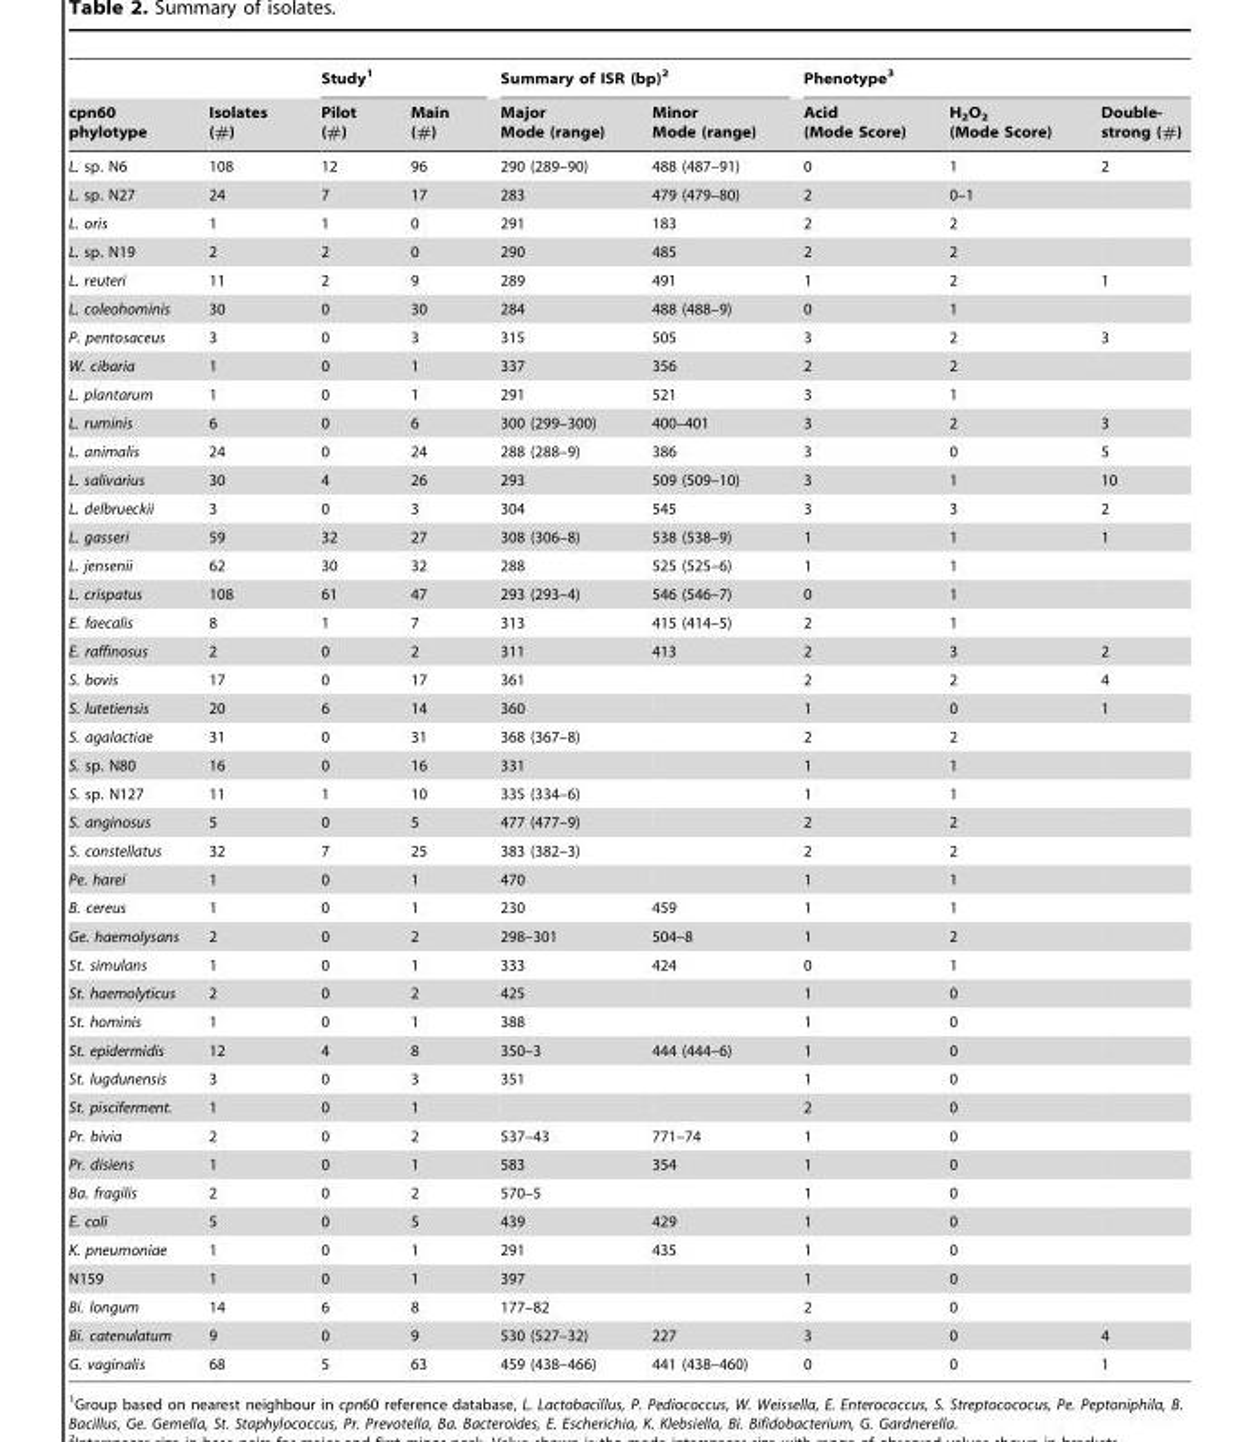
<table><thead><tr><td rowspan="2">cpn60 phylotype</td><td rowspan="2">Isolates (#)</td><td colspan="2">Study<sup>1</sup></td><td colspan="2">Summary of ISR (bp)<sup>2</sup></td><td colspan="3">Phenotype<sup>3</sup></td></tr><tr><td>Pilot (#)</td><td>Main (#)</td><td>Major Mode (range)</td><td>Minor Mode (range)</td><td>Acid (Mode Score)</td><td>H<sub>2</sub>O<sub>2</sub> (Mode Score)</td><td>Double- strong (#)</td></tr></thead><tbody><tr><td>L. sp. N6</td><td>108</td><td>12</td><td>96</td><td>290 (289–90)</td><td>488 (487–91)</td><td>0</td><td>1</td><td>2</td></tr><tr><td>L. sp. N27</td><td>24</td><td>7</td><td>17</td><td>283</td><td>479 (479–80)</td><td>2</td><td>0–1</td><td></td></tr><tr><td>L. oris</td><td>1</td><td>1</td><td>0</td><td>291</td><td>183</td><td>2</td><td>2</td><td></td></tr><tr><td>L. sp. N19</td><td>2</td><td>2</td><td>0</td><td>290</td><td>485</td><td>2</td><td>2</td><td></td></tr><tr><td>L. reuteri</td><td>11</td><td>2</td><td>9</td><td>289</td><td>491</td><td>1</td><td>2</td><td>1</td></tr><tr><td>L. coleohominis</td><td>30</td><td>0</td><td>30</td><td>284</td><td>488 (488–9)</td><td>0</td><td>1</td><td></td></tr><tr><td>P. pentosaceus</td><td>3</td><td>0</td><td>3</td><td>315</td><td>505</td><td>3</td><td>2</td><td>3</td></tr><tr><td>W. cibaria</td><td>1</td><td>0</td><td>1</td><td>337</td><td>356</td><td>2</td><td>2</td><td></td></tr><tr><td>L. plantarum</td><td>1</td><td>0</td><td>1</td><td>291</td><td>521</td><td>3</td><td>1</td><td></td></tr><tr><td>L. ruminis</td><td>6</td><td>0</td><td>6</td><td>300 (299–300)</td><td>400–401</td><td>3</td><td>2</td><td>3</td></tr><tr><td>L. animalis</td><td>24</td><td>0</td><td>24</td><td>288 (288–9)</td><td>386</td><td>3</td><td>0</td><td>5</td></tr><tr><td>L. salivarius</td><td>30</td><td>4</td><td>26</td><td>293</td><td>509 (509–10)</td><td>3</td><td>1</td><td>10</td></tr><tr><td>L. delbrueckii</td><td>3</td><td>0</td><td>3</td><td>304</td><td>545</td><td>3</td><td>3</td><td>2</td></tr><tr><td>L. gasseri</td><td>59</td><td>32</td><td>27</td><td>308 (306–8)</td><td>538 (538–9)</td><td>1</td><td>1</td><td>1</td></tr><tr><td>L. jensenii</td><td>62</td><td>30</td><td>32</td><td>288</td><td>525 (525–6)</td><td>1</td><td>1</td><td></td></tr><tr><td>L. crispatus</td><td>108</td><td>61</td><td>47</td><td>293 (293–4)</td><td>546 (546–7)</td><td>0</td><td>1</td><td></td></tr><tr><td>E. faecalis</td><td>8</td><td>1</td><td>7</td><td>313</td><td>415 (414–5)</td><td>2</td><td>1</td><td></td></tr><tr><td>E. raffinosus</td><td>2</td><td>0</td><td>2</td><td>311</td><td>413</td><td>2</td><td>3</td><td>2</td></tr><tr><td>S. bovis</td><td>17</td><td>0</td><td>17</td><td>361</td><td></td><td>2</td><td>2</td><td>4</td></tr><tr><td>S. lutetiensis</td><td>20</td><td>6</td><td>14</td><td>360</td><td></td><td>1</td><td>0</td><td>1</td></tr><tr><td>S. agalactiae</td><td>31</td><td>0</td><td>31</td><td>368 (367–8)</td><td></td><td>2</td><td>2</td><td></td></tr><tr><td>S. sp. N80</td><td>16</td><td>0</td><td>16</td><td>331</td><td></td><td>1</td><td>1</td><td></td></tr><tr><td>S. sp. N127</td><td>11</td><td>1</td><td>10</td><td>335 (334–6)</td><td></td><td>1</td><td>1</td><td></td></tr><tr><td>S. anginosus</td><td>5</td><td>0</td><td>5</td><td>477 (477–9)</td><td></td><td>2</td><td>2</td><td></td></tr><tr><td>S. constellatus</td><td>32</td><td>7</td><td>25</td><td>383 (382–3)</td><td></td><td>2</td><td>2</td><td></td></tr><tr><td>Pe. harei</td><td>1</td><td>0</td><td>1</td><td>470</td><td></td><td>1</td><td>1</td><td></td></tr><tr><td>B. cereus</td><td>1</td><td>0</td><td>1</td><td>230</td><td>459</td><td>1</td><td>1</td><td></td></tr><tr><td>Ge. haemolysans</td><td>2</td><td>0</td><td>2</td><td>298–301</td><td>504–8</td><td>1</td><td>2</td><td></td></tr><tr><td>St. simulans</td><td>1</td><td>0</td><td>1</td><td>333</td><td>424</td><td>0</td><td>1</td><td></td></tr><tr><td>St. haemolyticus</td><td>2</td><td>0</td><td>2</td><td>425</td><td></td><td>1</td><td>0</td><td></td></tr><tr><td>St. hominis</td><td>1</td><td>0</td><td>1</td><td>388</td><td></td><td>1</td><td>0</td><td></td></tr><tr><td>St. epidermidis</td><td>12</td><td>4</td><td>8</td><td>350–3</td><td>444 (444–6)</td><td>1</td><td>0</td><td></td></tr><tr><td>St. lugdunensis</td><td>3</td><td>0</td><td>3</td><td>351</td><td></td><td>1</td><td>0</td><td></td></tr><tr><td>St. pisciferment.</td><td>1</td><td>0</td><td>1</td><td></td><td></td><td>2</td><td>0</td><td></td></tr><tr><td>Pr. bivia</td><td>2</td><td>0</td><td>2</td><td>537–43</td><td>771–74</td><td>1</td><td>0</td><td></td></tr><tr><td>Pr. disiens</td><td>1</td><td>0</td><td>1</td><td>583</td><td>354</td><td>1</td><td>0</td><td></td></tr><tr><td>Ba. fragilis</td><td>2</td><td>0</td><td>2</td><td>570–5</td><td></td><td>1</td><td>0</td><td></td></tr><tr><td>E. coli</td><td>5</td><td>0</td><td>5</td><td>439</td><td>429</td><td>1</td><td>0</td><td></td></tr><tr><td>K. pneumoniae</td><td>1</td><td>0</td><td>1</td><td>291</td><td>435</td><td>1</td><td>0</td><td></td></tr><tr><td>N159</td><td>1</td><td>0</td><td>1</td><td>397</td><td></td><td>1</td><td>0</td><td></td></tr><tr><td>Bi. longum</td><td>14</td><td>6</td><td>8</td><td>177–82</td><td></td><td>2</td><td>0</td><td></td></tr><tr><td>Bi. catenulatum</td><td>9</td><td>0</td><td>9</td><td>530 (527–32)</td><td>227</td><td>3</td><td>0</td><td>4</td></tr><tr><td>G. vaginalis</td><td>68</td><td>5</td><td>63</td><td>459 (438–466)</td><td>441 (438–460)</td><td>0</td><td>0</td><td>1</td></tr></tbody></table>